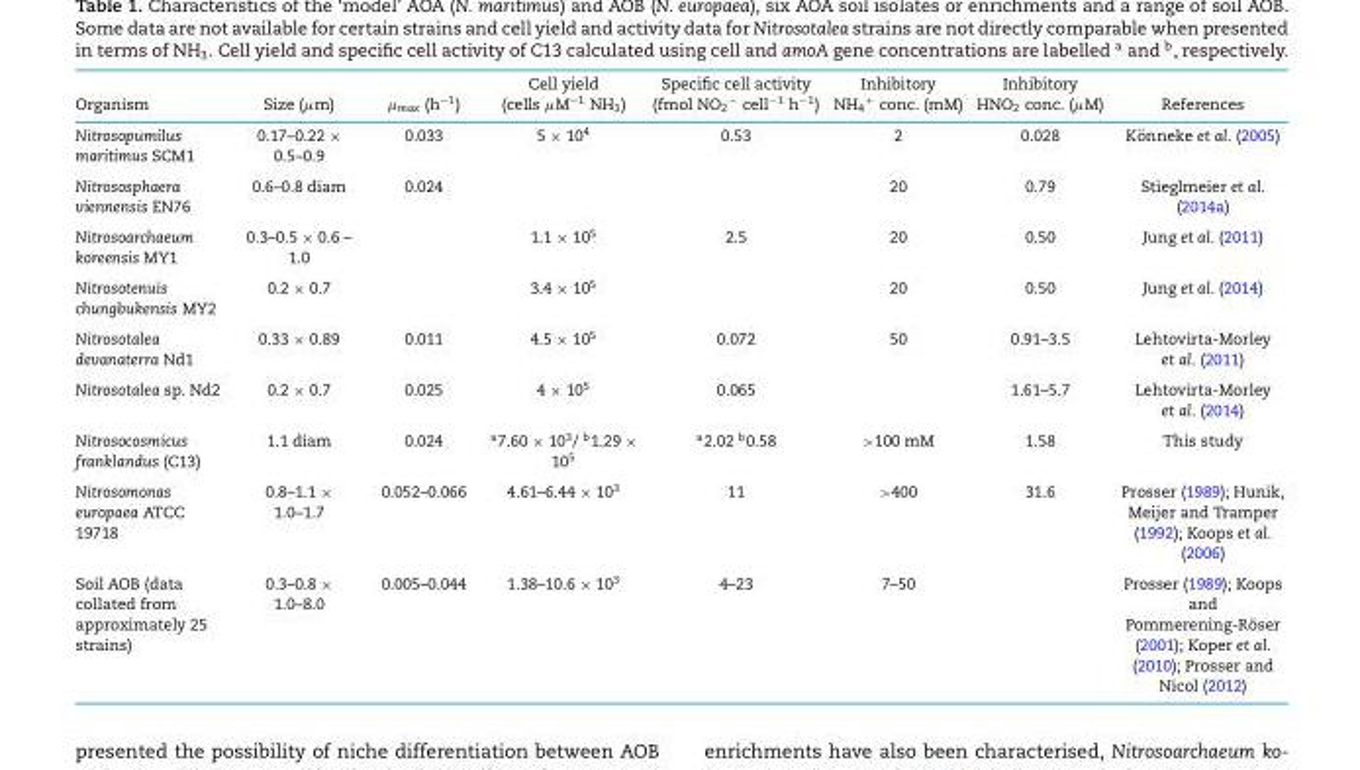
<table><thead><tr><td rowspan="2">Organism</td><td rowspan="2">Size (μm)</td><td rowspan="2">μ<sub>max</sub> (h<sup>−1</sup>)</td><td rowspan="2">Cell yield (cells μM<sup>−1</sup> NH<sub>3</sub>)</td><td rowspan="2">Specific cell activity (fmol NO<sub>2</sub><sup>−</sup> cell<sup>−1</sup> h<sup>−1</sup>)</td><td rowspan="2">Inhibitory NH<sub>4</sub><sup>+</sup> conc. (mM)</td><td rowspan="2">Inhibitory HNO<sub>2</sub> conc. (μM)</td><td rowspan="2">References</td></tr><tr></tr></thead><tbody><tr><td>Nitrosopumilus maritimus SCM1</td><td>0.17–0.22 × 0.5–0.9</td><td>0.033</td><td>5 × 10<sup>4</sup></td><td>0.53</td><td>2</td><td>0.028</td><td>K¨onneke et al. (2005)</td></tr><tr><td>Nitrososphaera viennensis EN76</td><td>0.6–0.8 diam</td><td>0.024</td><td></td><td></td><td>20</td><td>0.79</td><td>Stieglmeier et al. (2014a)</td></tr><tr><td>Nitrosoarchaeum koreensis MY1</td><td>0.3–0.5 × 0.6 – 1.0</td><td></td><td>1.1 × 10<sup>5</sup></td><td>2.5</td><td>20</td><td>0.50</td><td>Jung et al. (2011)</td></tr><tr><td>Nitrosotenuis chungbukensis MY2</td><td>0.2 × 0.7</td><td></td><td>3.4 × 10<sup>5</sup></td><td></td><td>20</td><td>0.50</td><td>Jung et al. (2014)</td></tr><tr><td>Nitrosotalea devanaterra Nd1</td><td>0.33 × 0.89</td><td>0.011</td><td>4.5 × 10<sup>5</sup></td><td>0.072</td><td>50</td><td>0.91–3.5</td><td>Lehtovirta-Morley et al. (2011)</td></tr><tr><td>Nitrosotalea sp. Nd2</td><td>0.2 × 0.7</td><td>0.025</td><td>4 × 10<sup>5</sup></td><td>0.065</td><td></td><td>1.61–5.7</td><td>Lehtovirta-Morley et al. (2014)</td></tr><tr><td>Nitrosocosmicus franklandus (C13)</td><td>1.1 diam</td><td>0.024</td><td><sup>a</sup>7.60 × 10<sup>3</sup>/ <sup>b</sup>1.29 × 10<sup>5</sup></td><td><sup>a</sup>2.02 <sup>b</sup>0.58</td><td>&gt;100 mM</td><td>1.58</td><td>This study</td></tr><tr><td>Nitrosomonas europaea ATCC 19718</td><td>0.8–1.1 × 1.0–1.7</td><td>0.052–0.066</td><td>4.61–6.44 × 10<sup>3</sup></td><td>11</td><td>&gt;400</td><td>31.6</td><td>Prosser (1989); Hunik, Meijer and Tramper (1992); Koops et al. (2006)</td></tr><tr><td>Soil AOB (data collated from approximately 25 strains)</td><td>0.3–0.8 × 1.0–8.0</td><td>0.005–0.044</td><td>1.38–10.6 × 10<sup>3</sup></td><td>4–23</td><td>7–50</td><td></td><td>Prosser (1989); Koops and Pommerening-R¨oser (2001); Koper et al. (2010); Prosser and Nicol (2012)</td></tr></tbody></table>